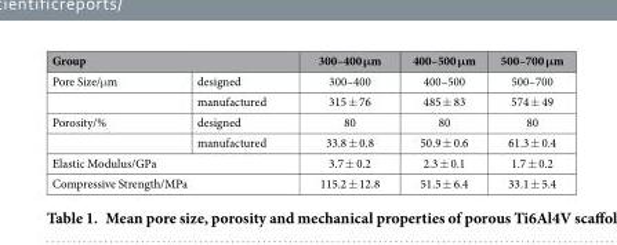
<table><thead><tr><td colspan="2">Group</td><td rowspan="2">300–400 μm 300–400</td><td rowspan="2">400–500 μm 400–500</td><td rowspan="2">500–700 μm 500–700</td></tr><tr><td>Pore Size/μ m</td><td>designed</td></tr></thead><tbody><tr><td></td><td>manufactured</td><td>315 ± 76</td><td>485 ± 83</td><td>574 ± 49</td></tr><tr><td rowspan="2">Porosity/%</td><td>designed</td><td>80</td><td>80</td><td>80</td></tr><tr><td>manufactured</td><td>33.8 ± 0.8</td><td>50.9 ± 0.6</td><td>61.3 ± 0.4</td></tr><tr><td colspan="2">Elastic Modulus/GPa</td><td>3.7 ± 0.2</td><td>2.3 ± 0.1</td><td>1.7 ± 0.2</td></tr><tr><td colspan="2">Compressive Strength/MPa</td><td>115.2 ± 12.8</td><td>51.5 ± 6.4</td><td>33.1 ± 5.4</td></tr></tbody></table>